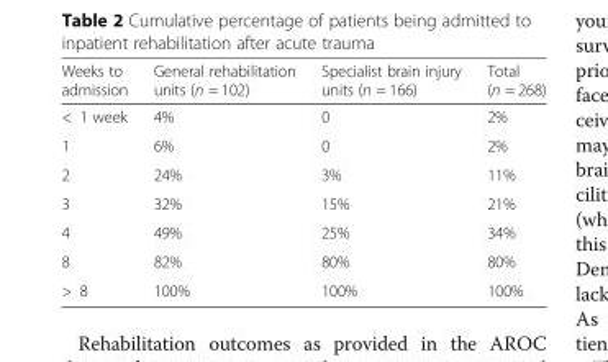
<table><thead><tr><td>Weeks to admission</td><td>General rehabilitation units (n = 102)</td><td>Specialist brain injury units (n = 166)</td><td>Total (n = 268)</td></tr></thead><tbody><tr><td>&lt; 1 week</td><td>4%</td><td>0</td><td>2%</td></tr><tr><td>1</td><td>6%</td><td>0</td><td>2%</td></tr><tr><td>2</td><td>24%</td><td>3%</td><td>11%</td></tr><tr><td>3</td><td>32%</td><td>15%</td><td>21%</td></tr><tr><td>4</td><td>49%</td><td>25%</td><td>34%</td></tr><tr><td>8</td><td>82%</td><td>80%</td><td>80%</td></tr><tr><td>&gt; 8</td><td>100%</td><td>100%</td><td>100%</td></tr></tbody></table>